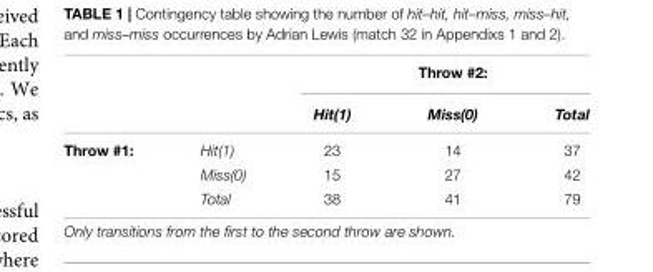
<table><thead><tr><td rowspan="2"></td><td rowspan="2"></td><td colspan="3">Throw #2:</td></tr><tr><td>Hit(1)</td><td>Miss(0)</td><td>Total</td></tr></thead><tbody><tr><td rowspan="3">Throw #1:</td><td>Hit(1)</td><td>23</td><td>14</td><td>37</td></tr><tr><td>Miss(0)</td><td>15</td><td>27</td><td>42</td></tr><tr><td>Total</td><td>38</td><td>41</td><td>79</td></tr></tbody></table>